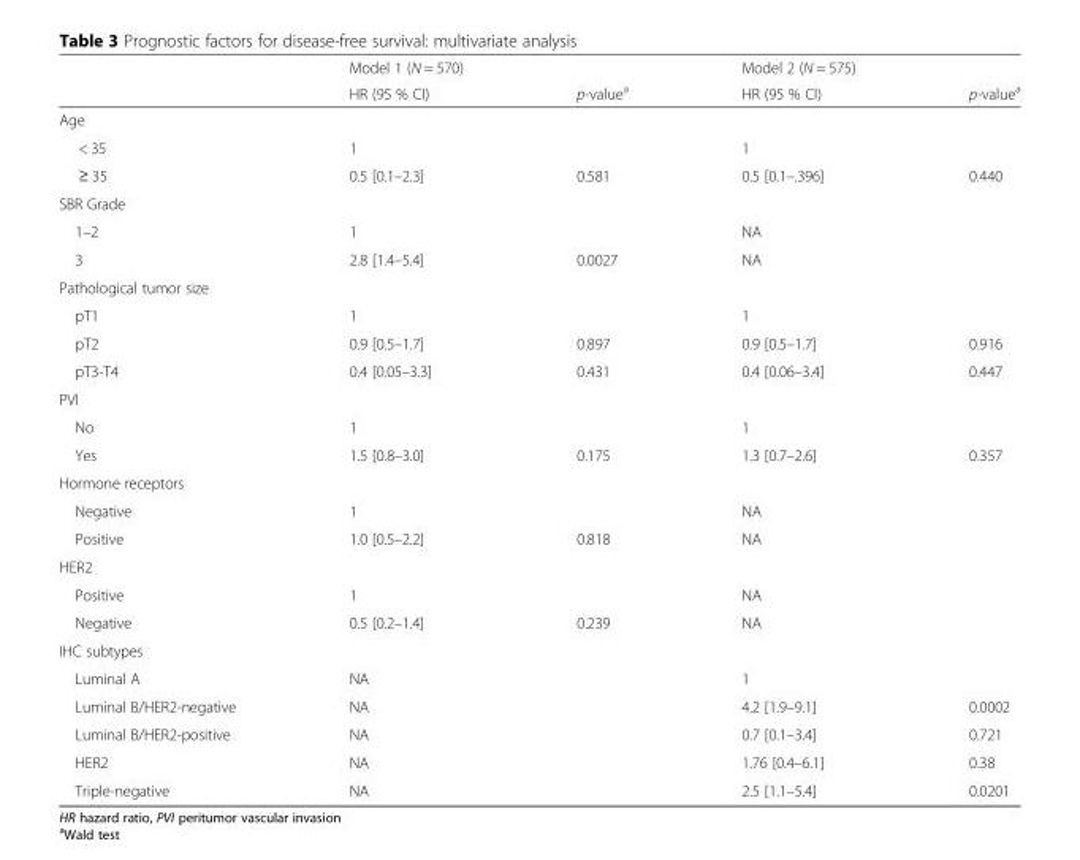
<table><thead><tr><td rowspan="2"></td><td rowspan="2">Model 1 (N = 570) HR (95 % CI)</td><td rowspan="2">p-value<sup>a</sup></td><td rowspan="2">Model 2 (N = 575) HR (95 % CI)</td><td rowspan="2">p-value<sup>a</sup></td></tr><tr></tr></thead><tbody><tr><td colspan="5">Age</td></tr><tr><td>&lt; 35</td><td>1</td><td></td><td>1</td><td></td></tr><tr><td>≥ 35</td><td>0.5 [0.1–2.3]</td><td>0.581</td><td>0.5 [0.1–.396]</td><td>0.440</td></tr><tr><td colspan="5">SBR Grade</td></tr><tr><td>1–2</td><td>1</td><td></td><td>NA</td><td></td></tr><tr><td>3</td><td>2.8 [1.4–5.4]</td><td>0.0027</td><td>NA</td><td></td></tr><tr><td colspan="5">Pathological tumor size</td></tr><tr><td>pT1</td><td>1</td><td></td><td>1</td><td></td></tr><tr><td>pT2</td><td>0.9 [0.5–1.7]</td><td>0.897</td><td>0.9 [0.5–1.7]</td><td>0.916</td></tr><tr><td>pT3-T4</td><td>0.4 [0.05–3.3]</td><td>0.431</td><td>0.4 [0.06–3.4]</td><td>0.447</td></tr><tr><td colspan="5">PVI</td></tr><tr><td>No</td><td>1</td><td></td><td>1</td><td></td></tr><tr><td>Yes</td><td>1.5 [0.8–3.0]</td><td>0.175</td><td>1.3 [0.7–2.6]</td><td>0.357</td></tr><tr><td colspan="5">Hormone receptors</td></tr><tr><td>Negative</td><td>1</td><td></td><td>NA</td><td></td></tr><tr><td>Positive</td><td>1.0 [0.5–2.2]</td><td>0.818</td><td>NA</td><td></td></tr><tr><td colspan="5">HER2</td></tr><tr><td>Positive</td><td>1</td><td></td><td>NA</td><td></td></tr><tr><td>Negative</td><td>0.5 [0.2–1.4]</td><td>0.239</td><td>NA</td><td></td></tr><tr><td colspan="5">IHC subtypes</td></tr><tr><td>Luminal A</td><td>NA</td><td></td><td>1</td><td></td></tr><tr><td>Luminal B/HER2-negative</td><td>NA</td><td></td><td>4.2 [1.9–9.1]</td><td>0.0002</td></tr><tr><td>Luminal B/HER2-positive</td><td>NA</td><td></td><td>0.7 [0.1–3.4]</td><td>0.721</td></tr><tr><td>HER2</td><td>NA</td><td></td><td>1.76 [0.4–6.1]</td><td>0.38</td></tr><tr><td>Triple-negative</td><td>NA</td><td></td><td>2.5 [1.1–5.4]</td><td>0.0201</td></tr></tbody></table>